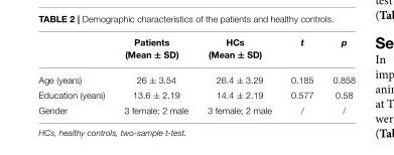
<table><thead><tr><td></td><td>Patients (Mean ± SD)</td><td>HCs (Mean ± SD)</td><td>t</td><td>p</td></tr></thead><tbody><tr><td>Age (years)</td><td>26 ± 3.54</td><td>26.4 ± 3.29</td><td>0.185</td><td>0.858</td></tr><tr><td>Education (years)</td><td>13.6 ± 2.19</td><td>14.4 ± 2.19</td><td>0.577</td><td>0.58</td></tr><tr><td>Gender</td><td>3 female; 2 male</td><td>3 female; 2 male</td><td>/</td><td>/</td></tr></tbody></table>